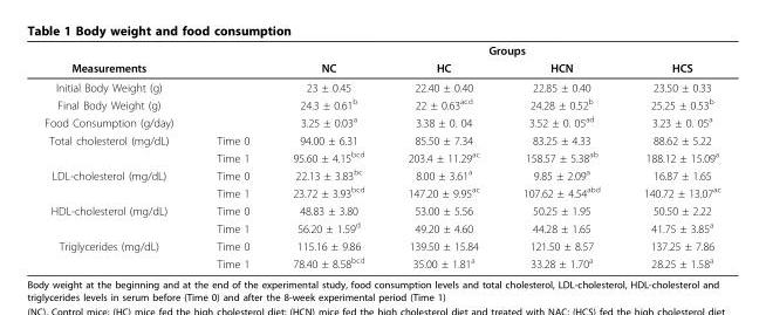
<table><thead><tr><td rowspan="2">Measurements</td><td rowspan="2"></td><td colspan="4">Groups</td></tr><tr><td>NC</td><td>HC</td><td>HCN</td><td>HCS</td></tr></thead><tbody><tr><td>Initial Body Weight (g)</td><td></td><td>23 ± 0.45</td><td>22.40 ± 0.40</td><td>22.85 ± 0.40</td><td>23.50 ± 0.33</td></tr><tr><td>Final Body Weight (g)</td><td></td><td>24.3 ± 0.61<sup>b</sup></td><td>22 ± 0.63<sup>acd</sup></td><td>24.28 ± 0.52<sup>b</sup></td><td>25.25 ± 0.53<sup>b</sup></td></tr><tr><td>Food Consumption (g/day)</td><td></td><td>3.25 ± 0.03<sup>a</sup></td><td>3.38 ± 0. 04</td><td>3.52 ± 0. 05<sup>ad</sup></td><td>3.23 ± 0. 05<sup>a</sup></td></tr><tr><td rowspan="2">Total cholesterol (mg/dL)</td><td>Time 0</td><td>94.00 ± 6.31</td><td>85.50 ± 7.34</td><td>83.25 ± 4.33</td><td>88.62 ± 5.22</td></tr><tr><td>Time 1</td><td>95.60 ± 4.15<sup>bcd</sup></td><td>203.4 ± 11.29<sup>ac</sup></td><td>158.57 ± 5.38<sup>ab</sup></td><td>188.12 ± 15.09<sup>a</sup></td></tr><tr><td rowspan="2">LDL-cholesterol (mg/dL)</td><td>Time 0</td><td>22.13 ± 3.83<sup>bc</sup></td><td>8.00 ± 3.61<sup>a</sup></td><td>9.85 ± 2.09<sup>a</sup></td><td>16.87 ± 1.65</td></tr><tr><td>Time 1</td><td>23.72 ± 3.93<sup>bcd</sup></td><td>147.20 ± 9.95<sup>ac</sup></td><td>107.62 ± 4.54<sup>abd</sup></td><td>140.72 ± 13.07<sup>ac</sup></td></tr><tr><td rowspan="2">HDL-cholesterol (mg/dL)</td><td>Time 0</td><td>48.83 ± 3.80</td><td>53.00 ± 5.56</td><td>50.25 ± 1.95</td><td>50.50 ± 2.22</td></tr><tr><td>Time 1</td><td>56.20 ± 1.59<sup>d</sup></td><td>49.20 ± 4.60</td><td>44.28 ± 1.65</td><td>41.75 ± 3.85<sup>a</sup></td></tr><tr><td rowspan="2">Triglycerides (mg/dL)</td><td>Time 0</td><td>115.16 ± 9.86</td><td>139.50 ± 15.84</td><td>121.50 ± 8.57</td><td>137.25 ± 7.86</td></tr><tr><td>Time 1</td><td>78.40 ± 8.58<sup>bcd</sup></td><td>35.00 ± 1.81<sup>a</sup></td><td>33.28 ± 1.70<sup>a</sup></td><td>28.25 ± 1.58<sup>a</sup></td></tr></tbody></table>